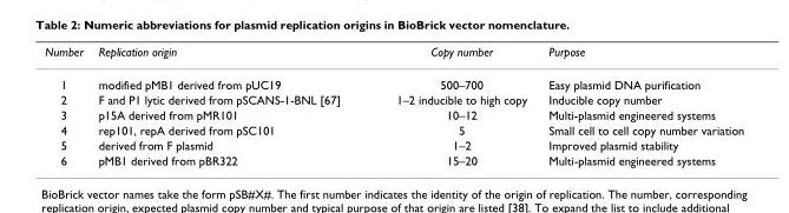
<table><thead><tr><td>Number</td><td>Replication origin</td><td>Copy number</td><td>Purpose</td></tr></thead><tbody><tr><td>1</td><td>modified pMB1 derived from pUC19</td><td>500–700</td><td>Easy plasmid DNA purification</td></tr><tr><td>2</td><td>F and P1 lytic derived from pSCANS-1-BNL [67]</td><td>1–2 inducible to high copy</td><td>Inducible copy number</td></tr><tr><td>3</td><td>p15A derived from pMR101</td><td>10–12</td><td>Multi-plasmid engineered systems</td></tr><tr><td>4</td><td>rep101, repA derived from pSC101</td><td>5</td><td>Small cell to cell copy number variation</td></tr><tr><td>5</td><td>derived from F plasmid</td><td>1–2</td><td>Improved plasmid stability</td></tr><tr><td>6</td><td>pMB1 derived from pBR322</td><td>15–20</td><td>Multi-plasmid engineered systems</td></tr></tbody></table>